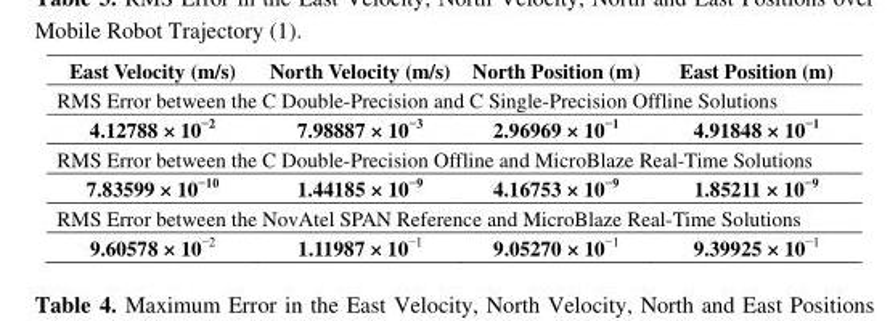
<table><thead><tr><td>East Velocity (m/s)</td><td>North Velocity (m/s)</td><td>North Position (m)</td><td>East Position (m)</td></tr></thead><tbody><tr><td colspan="4">RMS Error between the C Double-Precision and C Single-Precision Offline Solutions</td></tr><tr><td>4.12788 × 10<sup>−2</sup></td><td>7.98887 × 10<sup>−3</sup></td><td>2.96969 × 10<sup>−1</sup></td><td>4.91848 × 10<sup>−1</sup></td></tr><tr><td colspan="4">RMS Error between the C Double-Precision Offline and MicroBlaze Real-Time Solutions</td></tr><tr><td>7.83599 × 10<sup>−10</sup></td><td>1.44185 × 10<sup>−9</sup></td><td>4.16753 × 10<sup>−9</sup></td><td>1.85211 × 10<sup>−9</sup></td></tr><tr><td colspan="4">RMS Error between the NovAtel SPAN Reference and MicroBlaze Real-Time Solutions</td></tr><tr><td>9.60578 × 10<sup>−2</sup></td><td>1.11987 × 10<sup>−1</sup></td><td>9.05270 × 10<sup>−1</sup></td><td>9.39925 × 10<sup>−1</sup></td></tr></tbody></table>